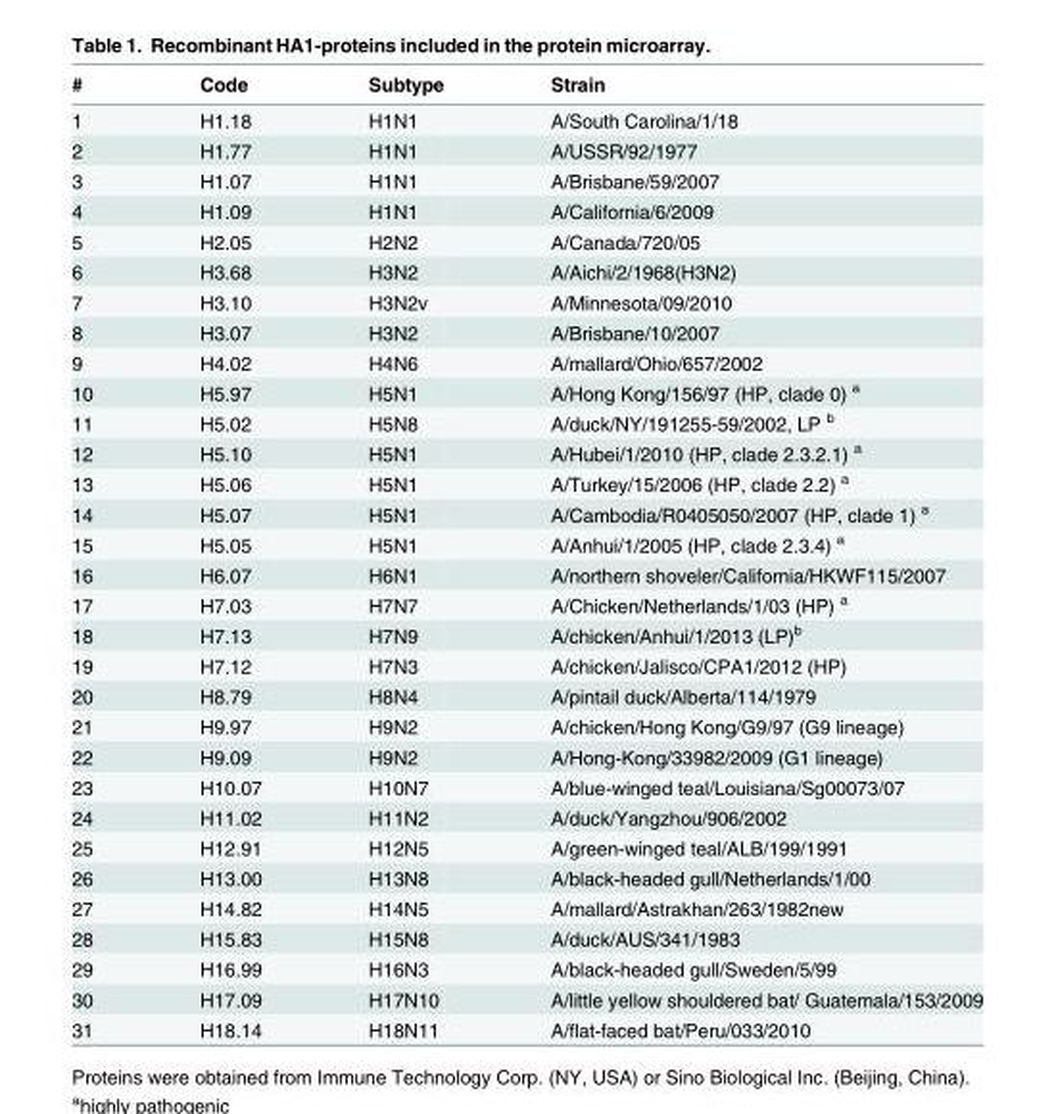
<table><thead><tr><td>#</td><td>Code</td><td>Subtype</td><td>Strain</td></tr></thead><tbody><tr><td>1</td><td>H1.18</td><td>H1N1</td><td>A/South Carolina/1/18</td></tr><tr><td>2</td><td>H1.77</td><td>H1N1</td><td>A/USSR/92/1977</td></tr><tr><td>3</td><td>H1.07</td><td>H1N1</td><td>A/Brisbane/59/2007</td></tr><tr><td>4</td><td>H1.09</td><td>H1N1</td><td>A/California/6/2009</td></tr><tr><td>5</td><td>H2.05</td><td>H2N2</td><td>A/Canada/720/05</td></tr><tr><td>6</td><td>H3.68</td><td>H3N2</td><td>A/Aichi/2/1968(H3N2)</td></tr><tr><td>7</td><td>H3.10</td><td>H3N2v</td><td>A/Minnesota/09/2010</td></tr><tr><td>8</td><td>H3.07</td><td>H3N2</td><td>A/Brisbane/10/2007</td></tr><tr><td>9</td><td>H4.02</td><td>H4N6</td><td>A/mallard/Ohio/657/2002</td></tr><tr><td>10</td><td>H5.97</td><td>H5N1</td><td>A/Hong Kong/156/97 (HP, clade 0) <sup>a</sup></td></tr><tr><td>11</td><td>H5.02</td><td>H5N8</td><td>A/duck/NY/191255-59/2002, LP <sup>b</sup></td></tr><tr><td>12</td><td>H5.10</td><td>H5N1</td><td>A/Hubei/1/2010 (HP, clade 2.3.2.1) <sup>a</sup></td></tr><tr><td>13</td><td>H5.06</td><td>H5N1</td><td>A/Turkey/15/2006 (HP, clade 2.2) <sup>a</sup></td></tr><tr><td>14</td><td>H5.07</td><td>H5N1</td><td>A/Cambodia/R0405050/2007 (HP, clade 1) <sup>a</sup></td></tr><tr><td>15</td><td>H5.05</td><td>H5N1</td><td>A/Anhui/1/2005 (HP, clade 2.3.4) <sup>a</sup></td></tr><tr><td>16</td><td>H6.07</td><td>H6N1</td><td>A/northern shoveler/California/HKWF115/2007</td></tr><tr><td>17</td><td>H7.03</td><td>H7N7</td><td>A/Chicken/Netherlands/1/03 (HP) <sup>a</sup></td></tr><tr><td>18</td><td>H7.13</td><td>H7N9</td><td>A/chicken/Anhui/1/2013 (LP)<sup>b</sup></td></tr><tr><td>19</td><td>H7.12</td><td>H7N3</td><td>A/chicken/Jalisco/CPA1/2012 (HP)</td></tr><tr><td>20</td><td>H8.79</td><td>H8N4</td><td>A/pintail duck/Alberta/114/1979</td></tr><tr><td>21</td><td>H9.97</td><td>H9N2</td><td>A/chicken/Hong Kong/G9/97 (G9 lineage)</td></tr><tr><td>22</td><td>H9.09</td><td>H9N2</td><td>A/Hong-Kong/33982/2009 (G1 lineage)</td></tr><tr><td>23</td><td>H10.07</td><td>H10N7</td><td>A/blue-winged teal/Louisiana/Sg00073/07</td></tr><tr><td>24</td><td>H11.02</td><td>H11N2</td><td>A/duck/Yangzhou/906/2002</td></tr><tr><td>25</td><td>H12.91</td><td>H12N5</td><td>A/green-winged teal/ALB/199/1991</td></tr><tr><td>26</td><td>H13.00</td><td>H13N8</td><td>A/black-headed gull/Netherlands/1/00</td></tr><tr><td>27</td><td>H14.82</td><td>H14N5</td><td>A/mallard/Astrakhan/263/1982new</td></tr><tr><td>28</td><td>H15.83</td><td>H15N8</td><td>A/duck/AUS/341/1983</td></tr><tr><td>29</td><td>H16.99</td><td>H16N3</td><td>A/black-headed gull/Sweden/5/99</td></tr><tr><td>30</td><td>H17.09</td><td>H17N10</td><td>A/little yellow shouldered bat/ Guatemala/153/2009</td></tr><tr><td>31</td><td>H18.14</td><td>H18N11</td><td>A/flat-faced bat/Peru/033/2010</td></tr></tbody></table>